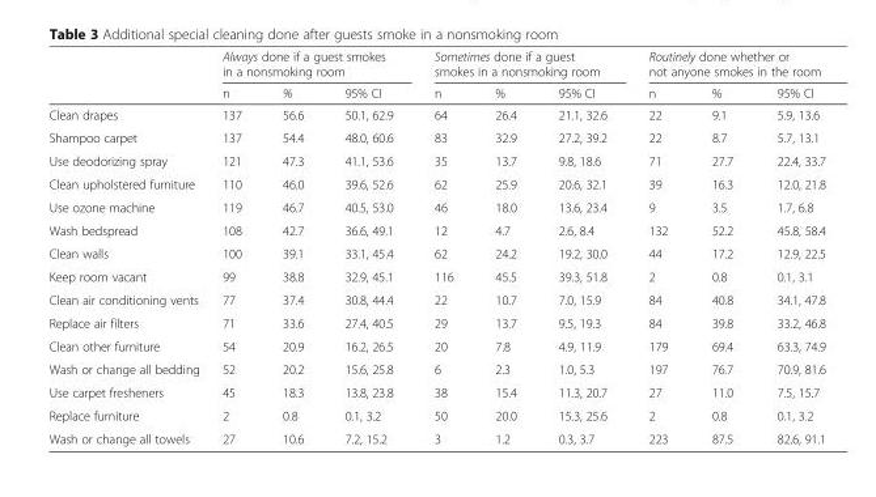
<table><thead><tr><td rowspan="2"></td><td colspan="3">Always done if a guest smokes in a nonsmoking room</td><td colspan="3">Sometimes done if a guest smokes in a nonsmoking room</td><td colspan="3">Routinely done whether or not anyone smokes in the room</td></tr><tr><td>n</td><td>%</td><td>95% CI</td><td>n</td><td>%</td><td>95% CI</td><td>n</td><td>%</td><td>95% CI</td></tr></thead><tbody><tr><td>Clean drapes</td><td>137</td><td>56.6</td><td>50.1, 62.9</td><td>64</td><td>26.4</td><td>21.1, 32.6</td><td>22</td><td>9.1</td><td>5.9, 13.6</td></tr><tr><td>Shampoo carpet</td><td>137</td><td>54.4</td><td>48.0, 60.6</td><td>83</td><td>32.9</td><td>27.2, 39.2</td><td>22</td><td>8.7</td><td>5.7, 13.1</td></tr><tr><td>Use deodorizing spray</td><td>121</td><td>47.3</td><td>41.1, 53.6</td><td>35</td><td>13.7</td><td>9.8, 18.6</td><td>71</td><td>27.7</td><td>22.4, 33.7</td></tr><tr><td>Clean upholstered furniture</td><td>110</td><td>46.0</td><td>39.6, 52.6</td><td>62</td><td>25.9</td><td>20.6, 32.1</td><td>39</td><td>16.3</td><td>12.0, 21.8</td></tr><tr><td>Use ozone machine</td><td>119</td><td>46.7</td><td>40.5, 53.0</td><td>46</td><td>18.0</td><td>13.6, 23.4</td><td>9</td><td>3.5</td><td>1.7, 6.8</td></tr><tr><td>Wash bedspread</td><td>108</td><td>42.7</td><td>36.6, 49.1</td><td>12</td><td>4.7</td><td>2.6, 8.4</td><td>132</td><td>52.2</td><td>45.8, 58.4</td></tr><tr><td>Clean walls</td><td>100</td><td>39.1</td><td>33.1, 45.4</td><td>62</td><td>24.2</td><td>19.2, 30.0</td><td>44</td><td>17.2</td><td>12.9, 22.5</td></tr><tr><td>Keep room vacant</td><td>99</td><td>38.8</td><td>32.9, 45.1</td><td>116</td><td>45.5</td><td>39.3, 51.8</td><td>2</td><td>0.8</td><td>0.1, 3.1</td></tr><tr><td>Clean air conditioning vents</td><td>77</td><td>37.4</td><td>30.8, 44.4</td><td>22</td><td>10.7</td><td>7.0, 15.9</td><td>84</td><td>40.8</td><td>34.1, 47.8</td></tr><tr><td>Replace air filters</td><td>71</td><td>33.6</td><td>27.4, 40.5</td><td>29</td><td>13.7</td><td>9.5, 19.3</td><td>84</td><td>39.8</td><td>33.2, 46.8</td></tr><tr><td>Clean other furniture</td><td>54</td><td>20.9</td><td>16.2, 26.5</td><td>20</td><td>7.8</td><td>4.9, 11.9</td><td>179</td><td>69.4</td><td>63.3, 74.9</td></tr><tr><td>Wash or change all bedding</td><td>52</td><td>20.2</td><td>15.6, 25.8</td><td>6</td><td>2.3</td><td>1.0, 5.3</td><td>197</td><td>76.7</td><td>70.9, 81.6</td></tr><tr><td>Use carpet fresheners</td><td>45</td><td>18.3</td><td>13.8, 23.8</td><td>38</td><td>15.4</td><td>11.3, 20.7</td><td>27</td><td>11.0</td><td>7.5, 15.7</td></tr><tr><td>Replace furniture</td><td>2</td><td>0.8</td><td>0.1, 3.2</td><td>50</td><td>20.0</td><td>15.3, 25.6</td><td>2</td><td>0.8</td><td>0.1, 3.2</td></tr><tr><td>Wash or change all towels</td><td>27</td><td>10.6</td><td>7.2, 15.2</td><td>3</td><td>1.2</td><td>0.3, 3.7</td><td>223</td><td>87.5</td><td>82.6, 91.1</td></tr></tbody></table>